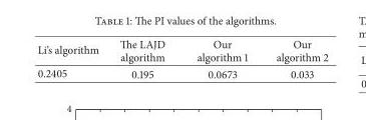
<table><thead><tr><td>Li’s algorithm</td><td>The LAJD algorithm</td><td>Our algorithm 1</td><td>Our algorithm 2</td></tr></thead><tbody><tr><td>0.2405</td><td>0.195</td><td>0.0673</td><td>0.033</td></tr></tbody></table>